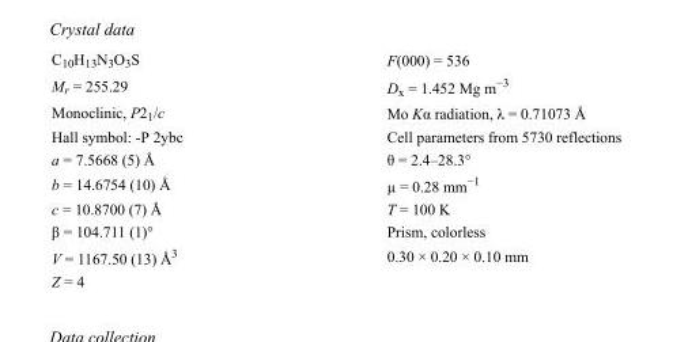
<table><tbody><tr><td>C<sub>10</sub>H<sub>13</sub>N<sub>3</sub>O<sub>3</sub>S</td><td>F(000) = 536</td></tr><tr><td>M<sub>r</sub> = 255.29</td><td>D<sub>x</sub> = 1.452 Mg m<sup>−3</sup></td></tr><tr><td>Monoclinic, P2<sub>1</sub>/c</td><td>Mo Kα radiation, λ = 0.71073 Å</td></tr><tr><td>Hall symbol: -P 2ybc</td><td>Cell parameters from 5730 reflections</td></tr><tr><td>a = 7.5668 (5) Å</td><td>θ = 2.4–28.3°</td></tr><tr><td>b = 14.6754 (10) Å</td><td>µ = 0.28 mm<sup>−1</sup></td></tr><tr><td>c = 10.8700 (7) Å</td><td>T = 100 K</td></tr><tr><td>β = 104.711 (1)°</td><td>Prism, colorless</td></tr><tr><td>V = 1167.50 (13) Å<sup>3</sup></td><td>0.30 × 0.20 × 0.10 mm</td></tr><tr><td>Z = 4</td><td></td></tr></tbody></table>